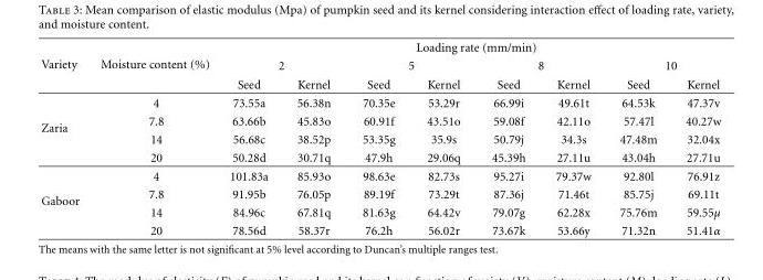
<table><thead><tr><td rowspan="3">Variety</td><td rowspan="3">Moisture content (%)</td><td colspan="8">Loading rate (mm/min)</td></tr><tr><td colspan="2">2</td><td colspan="2">5</td><td colspan="2">8</td><td colspan="2">10</td></tr><tr><td>Seed</td><td>Kernel</td><td>Seed</td><td>Kernel</td><td>Seed</td><td>Kernel</td><td>Seed</td><td>Kernel</td></tr></thead><tbody><tr><td rowspan="4">Zaria</td><td>4</td><td>73.55a</td><td>56.38n</td><td>70.35e</td><td>53.29r</td><td>66.99i</td><td>49.61t</td><td>64.53k</td><td>47.37v</td></tr><tr><td>7.8</td><td>63.66b</td><td>45.83o</td><td>60.91f</td><td>43.51o</td><td>59.08f</td><td>42.11o</td><td>57.47l</td><td>40.27w</td></tr><tr><td>14</td><td>56.68c</td><td>38.52p</td><td>53.35g</td><td>35.9s</td><td>50.79j</td><td>34.3s</td><td>47.48m</td><td>32.04x</td></tr><tr><td>20</td><td>50.28d</td><td>30.71q</td><td>47.9h</td><td>29.06q</td><td>45.39h</td><td>27.11u</td><td>43.04h</td><td>27.71u</td></tr><tr><td rowspan="4">Gaboor</td><td>4</td><td>101.83a</td><td>85.93o</td><td>98.63e</td><td>82.73s</td><td>95.27i</td><td>79.37w</td><td>92.80l</td><td>76.91z</td></tr><tr><td>7.8</td><td>91.95b</td><td>76.05p</td><td>89.19f</td><td>73.29t</td><td>87.36j</td><td>71.46t</td><td>85.75j</td><td>69.11t</td></tr><tr><td>14</td><td>84.96c</td><td>67.81q</td><td>81.63g</td><td>64.42v</td><td>79.07g</td><td>62.28x</td><td>75.76m</td><td>59.55μ</td></tr><tr><td>20</td><td>78.56d</td><td>58.37r</td><td>76.2h</td><td>56.02r</td><td>73.67k</td><td>53.66y</td><td>71.32n</td><td>51.41α</td></tr></tbody></table>